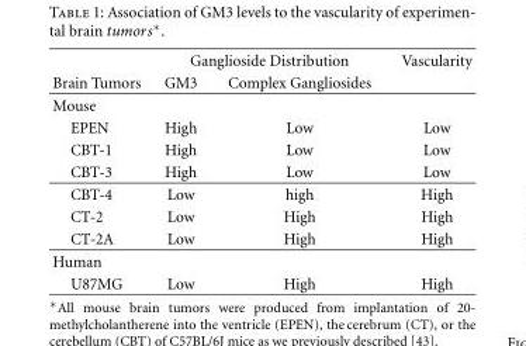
<table><thead><tr><td rowspan="2">Brain Tumors</td><td colspan="2">Ganglioside Distribution</td><td rowspan="2">Vascularity</td></tr><tr><td>GM3</td><td>Complex Gangliosides</td></tr></thead><tbody><tr><td colspan="4">Mouse</td></tr><tr><td>EPEN</td><td>High</td><td>Low</td><td>Low</td></tr><tr><td>CBT-1</td><td>High</td><td>Low</td><td>Low</td></tr><tr><td>CBT-3</td><td>High</td><td>Low</td><td>Low</td></tr><tr><td>CBT-4</td><td>Low</td><td>high</td><td>High</td></tr><tr><td>CT-2</td><td>Low</td><td>High</td><td>High</td></tr><tr><td>CT-2A</td><td>Low</td><td>High</td><td>High</td></tr><tr><td colspan="4">Human</td></tr><tr><td>U87MG</td><td>Low</td><td>High</td><td>High</td></tr></tbody></table>